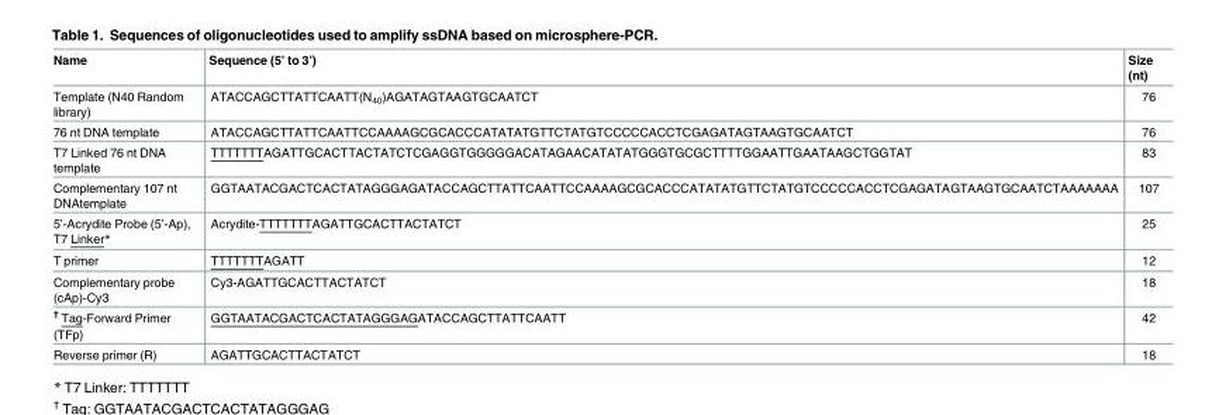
<table><thead><tr><td>Name</td><td>Sequence (5’ to 3’)</td><td>Size (nt)</td></tr></thead><tbody><tr><td>Template (N40 Random library)</td><td>ATACCAGCTTATTCAATT(N<sub>40</sub>)AGATAGTAAGTGCAATCT</td><td>76</td></tr><tr><td>76 nt DNA template</td><td>ATACCAGCTTATTCAATTCCAAAAGCGCACCCATATATGTTCTATGTCCCCCACCTCGAGATAGTAAGTGCAATCT</td><td>76</td></tr><tr><td>T7 Linked 76 nt DNA template</td><td>TTTTTTTAGATTGCACTTACTATCTCGAGGTGGGGGACATAGAACATATATGGGTGCGCTTTTGGAATTGAATAAGCTGGTAT</td><td>83</td></tr><tr><td>Complementary 107 nt DNAtemplate</td><td>GGTAATACGACTCACTATAGGGAGATACCAGCTTATTCAATTCCAAAAGCGCACCCATATATGTTCTATGTCCCCCACCTCGAGATAGTAAGTGCAATCTAAAAAAA</td><td>107</td></tr><tr><td>5’-Acrydite Probe (5’-Ap), T7 Linker*</td><td>Acrydite-TTTTTTTAGATTGCACTTACTATCT</td><td>25</td></tr><tr><td>T primer</td><td>TTTTTTTAGATT</td><td>12</td></tr><tr><td>Complementary probe (cAp)-Cy3</td><td>Cy3-AGATTGCACTTACTATCT</td><td>18</td></tr><tr><td><sup>†</sup> Tag-Forward Primer (TFp)</td><td>GGTAATACGACTCACTATAGGGAGATACCAGCTTATTCAATT</td><td>42</td></tr><tr><td>Reverse primer (R)</td><td>AGATTGCACTTACTATCT</td><td>18</td></tr></tbody></table>